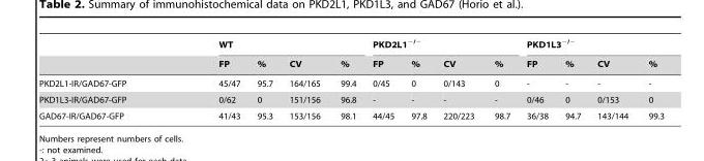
<table><thead><tr><td rowspan="2"></td><td colspan="4">WT</td><td colspan="4">PKD2L1<sup>−/−</sup></td><td colspan="4">PKD1L3<sup>−/−</sup></td></tr><tr><td>FP</td><td>%</td><td>CV</td><td>%</td><td>FP</td><td>%</td><td>CV</td><td>%</td><td>FP</td><td>%</td><td>CV</td><td>%</td></tr></thead><tbody><tr><td>PKD2L1-IR/GAD67-GFP</td><td>45/47</td><td>95.7</td><td>164/165</td><td>99.4</td><td>0/45</td><td>0</td><td>0/143</td><td>0</td><td>-</td><td>-</td><td>-</td><td>-</td></tr><tr><td>PKD1L3-IR/GAD67-GFP</td><td>0/62</td><td>0</td><td>151/156</td><td>96.8</td><td>-</td><td>-</td><td>-</td><td>-</td><td>0/46</td><td>0</td><td>0/153</td><td>0</td></tr><tr><td>GAD67-IR/GAD67-GFP</td><td>41/43</td><td>95.3</td><td>153/156</td><td>98.1</td><td>44/45</td><td>97.8</td><td>220/223</td><td>98.7</td><td>36/38</td><td>94.7</td><td>143/144</td><td>99.3</td></tr></tbody></table>